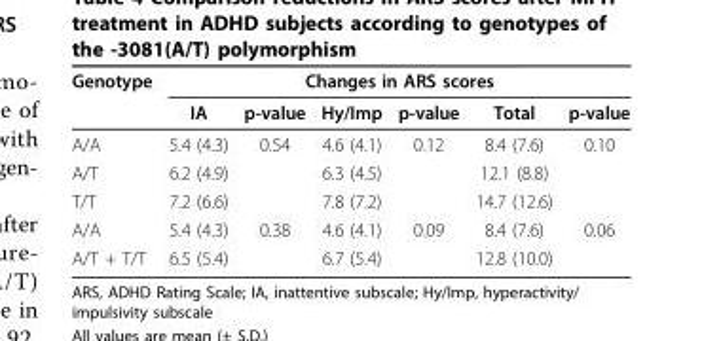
<table><thead><tr><td rowspan="2">Genotype</td><td colspan="6">Changes in ARS scores</td></tr><tr><td>IA</td><td>p-value</td><td>Hy/Imp</td><td>p-value</td><td>Total</td><td>p-value</td></tr></thead><tbody><tr><td>A/A</td><td>5.4 (4.3)</td><td>0.54</td><td>4.6 (4.1)</td><td>0.12</td><td>8.4 (7.6)</td><td>0.10</td></tr><tr><td>A/T</td><td>6.2 (4.9)</td><td></td><td>6.3 (4.5)</td><td></td><td>12.1 (8.8)</td><td></td></tr><tr><td>T/T</td><td>7.2 (6.6)</td><td></td><td>7.8 (7.2)</td><td></td><td>14.7 (12.6)</td><td></td></tr><tr><td>A/A</td><td>5.4 (4.3)</td><td>0.38</td><td>4.6 (4.1)</td><td>0.09</td><td>8.4 (7.6)</td><td>0.06</td></tr><tr><td>A/T + T/T</td><td>6.5 (5.4)</td><td></td><td>6.7 (5.4)</td><td></td><td>12.8 (10.0)</td><td></td></tr></tbody></table>